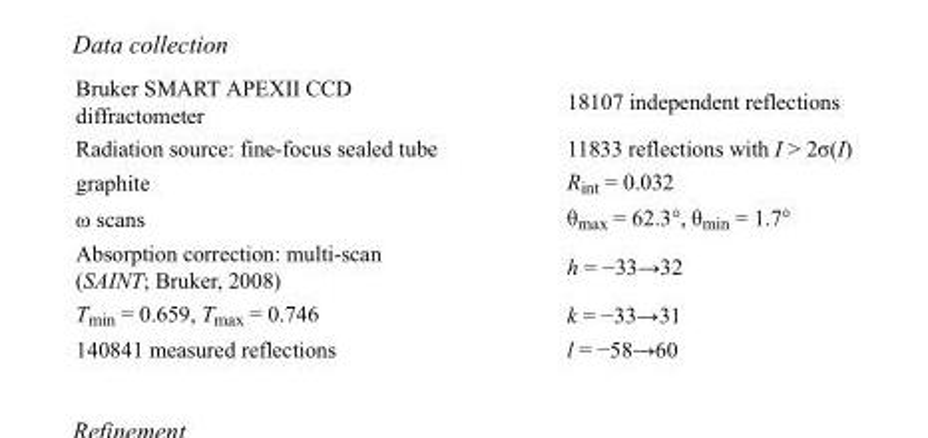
<table><tbody><tr><td>Bruker SMART APEXII CCD diffractometer</td><td>18107 independent reflections</td></tr><tr><td>Radiation source: fine-focus sealed tube</td><td>11833 reflections with I &gt; 2σ(I)</td></tr><tr><td>graphite</td><td>R<sub>int</sub> = 0.032</td></tr><tr><td>ω scans</td><td>θ<sub>max</sub> = 62.3°, θ<sub>min</sub> = 1.7°</td></tr><tr><td>Absorption correction: multi-scan (SAINT; Bruker, 2008)</td><td>h = −33→32</td></tr><tr><td>T<sub>min</sub> = 0.659, T<sub>max</sub> = 0.746</td><td>k = −33→31</td></tr><tr><td>140841 measured reflections</td><td>l = −58→60</td></tr></tbody></table>